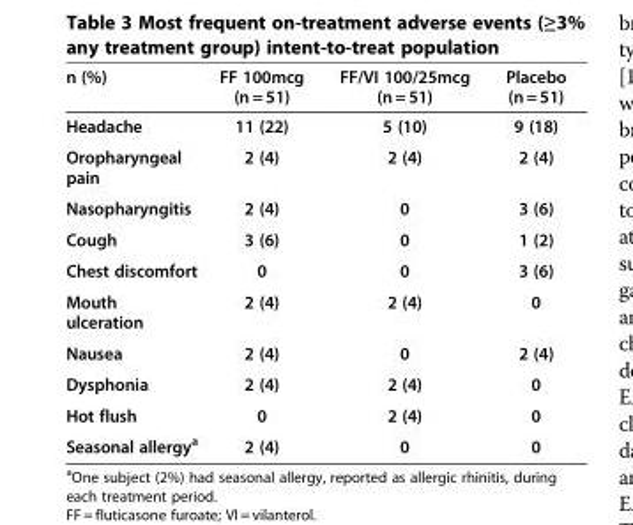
<table><thead><tr><td>n (%)</td><td>FF 100mcg (n = 51)</td><td>FF/VI 100/25mcg (n = 51)</td><td>Placebo (n = 51)</td></tr></thead><tbody><tr><td>Headache</td><td>11 (22)</td><td>5 (10)</td><td>9 (18)</td></tr><tr><td>Oropharyngeal pain</td><td>2 (4)</td><td>2 (4)</td><td>2 (4)</td></tr><tr><td>Nasopharyngitis</td><td>2 (4)</td><td>0</td><td>3 (6)</td></tr><tr><td>Cough</td><td>3 (6)</td><td>0</td><td>1 (2)</td></tr><tr><td>Chest discomfort</td><td>0</td><td>0</td><td>3 (6)</td></tr><tr><td>Mouth ulceration</td><td>2 (4)</td><td>2 (4)</td><td>0</td></tr><tr><td>Nausea</td><td>2 (4)</td><td>0</td><td>2 (4)</td></tr><tr><td>Dysphonia</td><td>2 (4)</td><td>2 (4)</td><td>0</td></tr><tr><td>Hot flush</td><td>0</td><td>2 (4)</td><td>0</td></tr><tr><td>Seasonal allergy<sup>a</sup></td><td>2 (4)</td><td>0</td><td>0</td></tr></tbody></table>